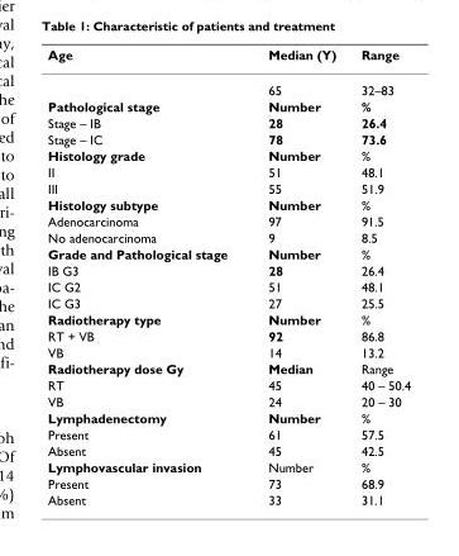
<table><thead><tr><td>Age</td><td>Median (Y)</td><td>Range</td></tr></thead><tbody><tr><td></td><td>65</td><td>32–83</td></tr><tr><td>Pathological stage</td><td>Number</td><td>%</td></tr><tr><td>Stage – IB</td><td>28</td><td>26.4</td></tr><tr><td>Stage – IC</td><td>78</td><td>73.6</td></tr><tr><td>Histology grade</td><td>Number</td><td>%</td></tr><tr><td>II</td><td>51</td><td>48.1</td></tr><tr><td>III</td><td>55</td><td>51.9</td></tr><tr><td>Histology subtype</td><td>Number</td><td>%</td></tr><tr><td>Adenocarcinoma</td><td>97</td><td>91.5</td></tr><tr><td>No adenocarcinoma</td><td>9</td><td>8.5</td></tr><tr><td>Grade and Pathological stage</td><td>Number</td><td>%</td></tr><tr><td>IB G3</td><td>28</td><td>26.4</td></tr><tr><td>IC G2</td><td>51</td><td>48.1</td></tr><tr><td>IC G3</td><td>27</td><td>25.5</td></tr><tr><td>Radiotherapy type</td><td>Number</td><td>%</td></tr><tr><td>RT + VB</td><td>92</td><td>86.8</td></tr><tr><td>VB</td><td>14</td><td>13.2</td></tr><tr><td>Radiotherapy dose Gy</td><td>Median</td><td>Range</td></tr><tr><td>RT</td><td>45</td><td>40 – 50.4</td></tr><tr><td>VB</td><td>24</td><td>20 – 30</td></tr><tr><td>Lymphadenectomy</td><td>Number</td><td>%</td></tr><tr><td>Present</td><td>61</td><td>57.5</td></tr><tr><td>Absent</td><td>45</td><td>42.5</td></tr><tr><td>Lymphovascular invasion</td><td>Number</td><td>%</td></tr><tr><td>Present</td><td>73</td><td>68.9</td></tr><tr><td>Absent</td><td>33</td><td>31.1</td></tr></tbody></table>